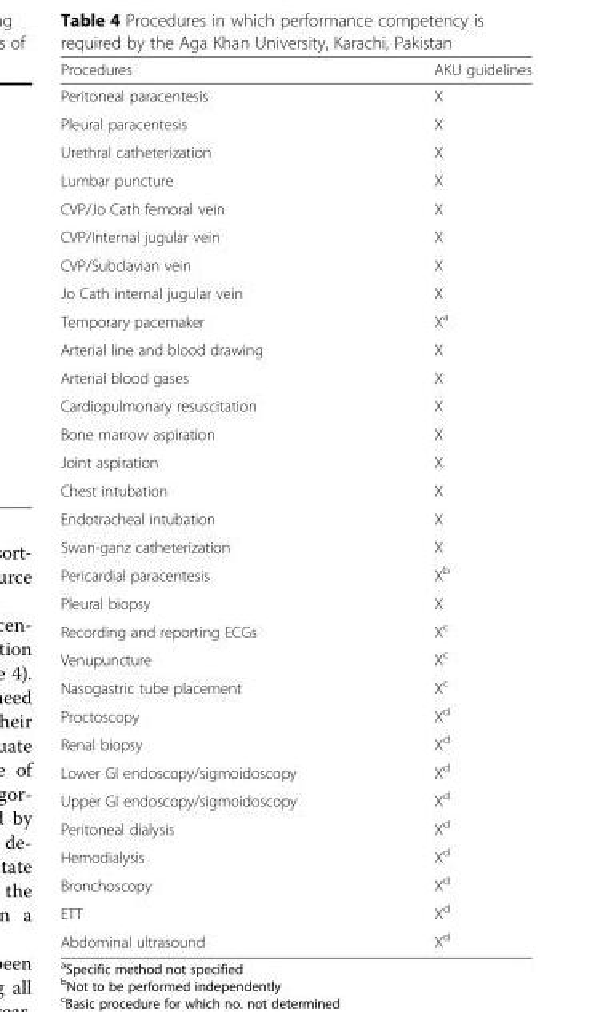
<table><thead><tr><td>Procedures</td><td>AKU guidelines</td></tr></thead><tbody><tr><td>Peritoneal paracentesis</td><td>X</td></tr><tr><td>Pleural paracentesis</td><td>X</td></tr><tr><td>Urethral catheterization</td><td>X</td></tr><tr><td>Lumbar puncture</td><td>X</td></tr><tr><td>CVP/Jo Cath femoral vein</td><td>X</td></tr><tr><td>CVP/Internal jugular vein</td><td>X</td></tr><tr><td>CVP/Subclavian vein</td><td>X</td></tr><tr><td>Jo Cath internal jugular vein</td><td>X</td></tr><tr><td>Temporary pacemaker</td><td>X<sup>a</sup></td></tr><tr><td>Arterial line and blood drawing</td><td>X</td></tr><tr><td>Arterial blood gases</td><td>X</td></tr><tr><td>Cardiopulmonary resuscitation</td><td>X</td></tr><tr><td>Bone marrow aspiration</td><td>X</td></tr><tr><td>Joint aspiration</td><td>X</td></tr><tr><td>Chest intubation</td><td>X</td></tr><tr><td>Endotracheal intubation</td><td>X</td></tr><tr><td>Swan-ganz catheterization</td><td>X</td></tr><tr><td>Pericardial paracentesis</td><td>X<sup>b</sup></td></tr><tr><td>Pleural biopsy</td><td>X</td></tr><tr><td>Recording and reporting ECGs</td><td>X<sup>c</sup></td></tr><tr><td>Venupuncture</td><td>X<sup>c</sup></td></tr><tr><td>Nasogastric tube placement</td><td>X<sup>c</sup></td></tr><tr><td>Proctoscopy</td><td>X<sup>d</sup></td></tr><tr><td>Renal biopsy</td><td>X<sup>d</sup></td></tr><tr><td>Lower GI endoscopy/sigmoidoscopy</td><td>X<sup>d</sup></td></tr><tr><td>Upper GI endoscopy/sigmoidoscopy</td><td>X<sup>d</sup></td></tr><tr><td>Peritoneal dialysis</td><td>X<sup>d</sup></td></tr><tr><td>Hemodialysis</td><td>X<sup>d</sup></td></tr><tr><td>Bronchoscopy</td><td>X<sup>d</sup></td></tr><tr><td>ETT</td><td>X<sup>d</sup></td></tr><tr><td>Abdominal ultrasound</td><td>X<sup>d</sup></td></tr></tbody></table>